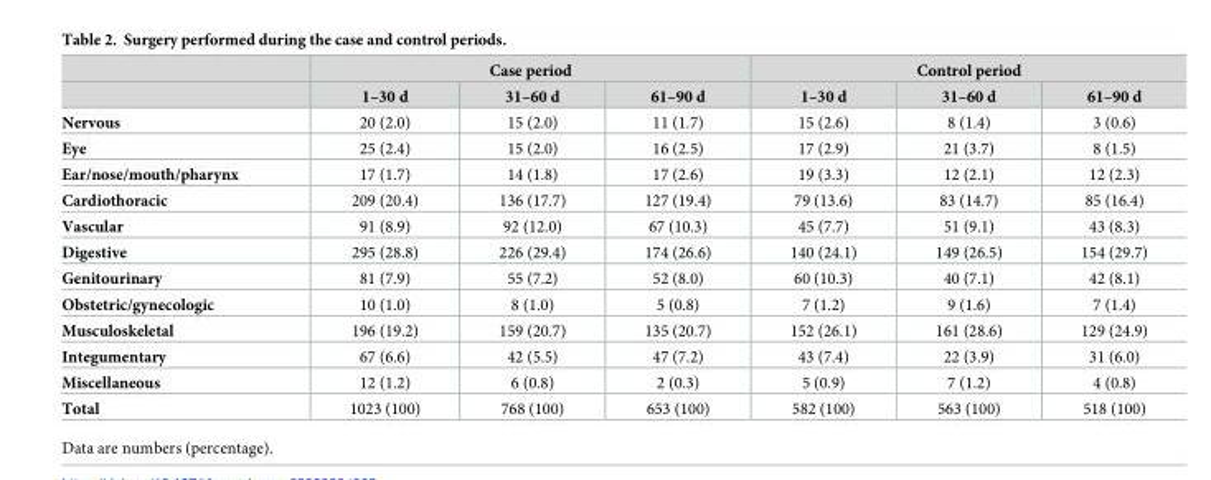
<table><thead><tr><td rowspan="2"></td><td colspan="3">Case period</td><td colspan="3">Control period</td></tr><tr><td>1–30 d</td><td>31–60 d</td><td>61–90 d</td><td>1–30 d</td><td>31–60 d</td><td>61–90 d</td></tr></thead><tbody><tr><td>Nervous</td><td>20 (2.0)</td><td>15 (2.0)</td><td>11 (1.7)</td><td>15 (2.6)</td><td>8 (1.4)</td><td>3 (0.6)</td></tr><tr><td>Eye</td><td>25 (2.4)</td><td>15 (2.0)</td><td>16 (2.5)</td><td>17 (2.9)</td><td>21 (3.7)</td><td>8 (1.5)</td></tr><tr><td>Ear/nose/mouth/pharynx</td><td>17 (1.7)</td><td>14 (1.8)</td><td>17 (2.6)</td><td>19 (3.3)</td><td>12 (2.1)</td><td>12 (2.3)</td></tr><tr><td>Cardiothoracic</td><td>209 (20.4)</td><td>136 (17.7)</td><td>127 (19.4)</td><td>79 (13.6)</td><td>83 (14.7)</td><td>85 (16.4)</td></tr><tr><td>Vascular</td><td>91 (8.9)</td><td>92 (12.0)</td><td>67 (10.3)</td><td>45 (7.7)</td><td>51 (9.1)</td><td>43 (8.3)</td></tr><tr><td>Digestive</td><td>295 (28.8)</td><td>226 (29.4)</td><td>174 (26.6)</td><td>140 (24.1)</td><td>149 (26.5)</td><td>154 (29.7)</td></tr><tr><td>Genitourinary</td><td>81 (7.9)</td><td>55 (7.2)</td><td>52 (8.0)</td><td>60 (10.3)</td><td>40 (7.1)</td><td>42 (8.1)</td></tr><tr><td>Obstetric/gynecologic</td><td>10 (1.0)</td><td>8 (1.0)</td><td>5 (0.8)</td><td>7 (1.2)</td><td>9 (1.6)</td><td>7 (1.4)</td></tr><tr><td>Musculoskeletal</td><td>196 (19.2)</td><td>159 (20.7)</td><td>135 (20.7)</td><td>152 (26.1)</td><td>161 (28.6)</td><td>129 (24.9)</td></tr><tr><td>Integumentary</td><td>67 (6.6)</td><td>42 (5.5)</td><td>47 (7.2)</td><td>43 (7.4)</td><td>22 (3.9)</td><td>31 (6.0)</td></tr><tr><td>Miscellaneous</td><td>12 (1.2)</td><td>6 (0.8)</td><td>2 (0.3)</td><td>5 (0.9)</td><td>7 (1.2)</td><td>4 (0.8)</td></tr><tr><td>Total</td><td>1023 (100)</td><td>768 (100)</td><td>653 (100)</td><td>582 (100)</td><td>563 (100)</td><td>518 (100)</td></tr></tbody></table>